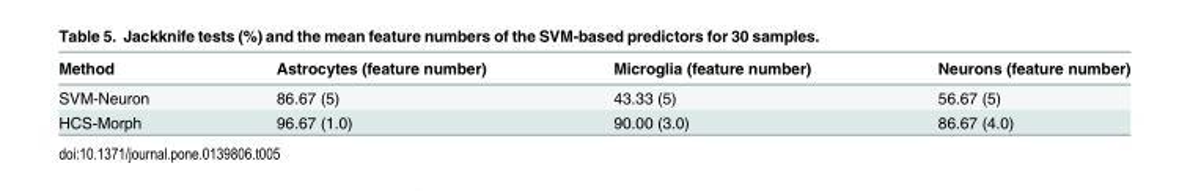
<table><thead><tr><td>Method</td><td>Astrocytes (feature number)</td><td>Microglia (feature number)</td><td>Neurons (feature number)</td></tr></thead><tbody><tr><td>SVM-Neuron</td><td>86.67 (5)</td><td>43.33 (5)</td><td>56.67 (5)</td></tr><tr><td>HCS-Morph</td><td>96.67 (1.0)</td><td>90.00 (3.0)</td><td>86.67 (4.0)</td></tr></tbody></table>